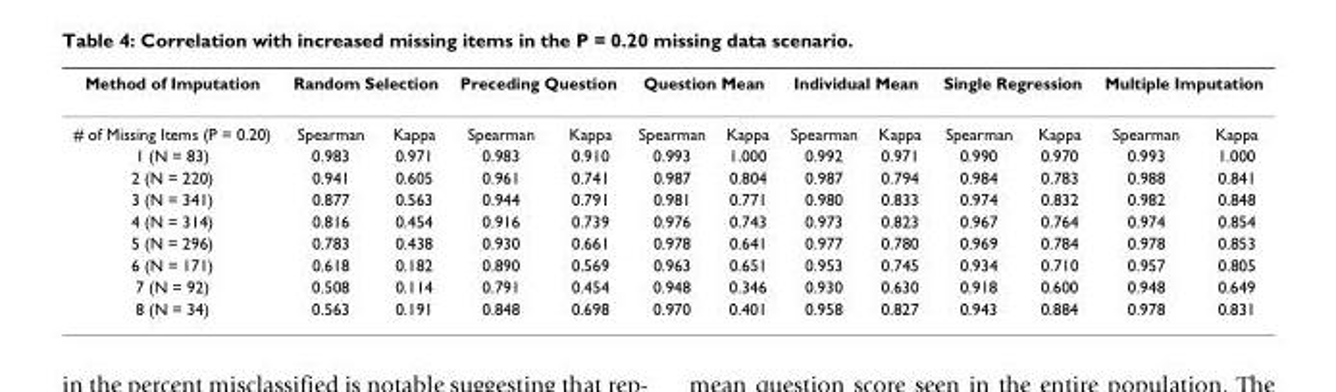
<table><thead><tr><td rowspan="2">Method of Imputation # of Missing Items (P = 0.20)</td><td colspan="2">Random Selection</td><td colspan="2">Preceding Question</td><td colspan="2">Question Mean</td><td colspan="2">Individual Mean</td><td colspan="2">Single Regression</td><td colspan="2">Multiple Imputation</td></tr><tr><td>Spearman</td><td>Kappa</td><td>Spearman</td><td>Kappa</td><td>Spearman</td><td>Kappa</td><td>Spearman</td><td>Kappa</td><td>Spearman</td><td>Kappa</td><td>Spearman</td><td>Kappa</td></tr></thead><tbody><tr><td>1 (N = 83)</td><td>0.983</td><td>0.971</td><td>0.983</td><td>0.910</td><td>0.993</td><td>1.000</td><td>0.992</td><td>0.971</td><td>0.990</td><td>0.970</td><td>0.993</td><td>1.000</td></tr><tr><td>2 (N = 220)</td><td>0.941</td><td>0.605</td><td>0.961</td><td>0.741</td><td>0.987</td><td>0.804</td><td>0.987</td><td>0.794</td><td>0.984</td><td>0.783</td><td>0.988</td><td>0.841</td></tr><tr><td>3 (N = 341)</td><td>0.877</td><td>0.563</td><td>0.944</td><td>0.791</td><td>0.981</td><td>0.771</td><td>0.980</td><td>0.833</td><td>0.974</td><td>0.832</td><td>0.982</td><td>0.848</td></tr><tr><td>4 (N = 314)</td><td>0.816</td><td>0.454</td><td>0.916</td><td>0.739</td><td>0.976</td><td>0.743</td><td>0.973</td><td>0.823</td><td>0.967</td><td>0.764</td><td>0.974</td><td>0.854</td></tr><tr><td>5 (N = 296)</td><td>0.783</td><td>0.438</td><td>0.930</td><td>0.661</td><td>0.978</td><td>0.641</td><td>0.977</td><td>0.780</td><td>0.969</td><td>0.784</td><td>0.978</td><td>0.853</td></tr><tr><td>6 (N = 171)</td><td>0.618</td><td>0.182</td><td>0.890</td><td>0.569</td><td>0.963</td><td>0.651</td><td>0.953</td><td>0.745</td><td>0.934</td><td>0.710</td><td>0.957</td><td>0.805</td></tr><tr><td>7 (N = 92)</td><td>0.508</td><td>0.114</td><td>0.791</td><td>0.454</td><td>0.948</td><td>0.346</td><td>0.930</td><td>0.630</td><td>0.918</td><td>0.600</td><td>0.948</td><td>0.649</td></tr><tr><td>8 (N = 34)</td><td>0.563</td><td>0.191</td><td>0.848</td><td>0.698</td><td>0.970</td><td>0.401</td><td>0.958</td><td>0.827</td><td>0.943</td><td>0.884</td><td>0.978</td><td>0.831</td></tr></tbody></table>